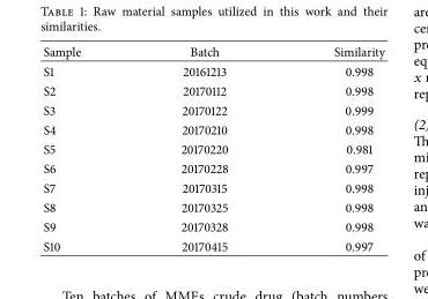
<table><thead><tr><td>Sample</td><td>Batch</td><td>Similarity</td></tr></thead><tbody><tr><td>S1</td><td>20161213</td><td>0.998</td></tr><tr><td>S2</td><td>20170112</td><td>0.998</td></tr><tr><td>S3</td><td>20170122</td><td>0.999</td></tr><tr><td>S4</td><td>20170210</td><td>0.998</td></tr><tr><td>S5</td><td>20170220</td><td>0.981</td></tr><tr><td>S6</td><td>20170228</td><td>0.997</td></tr><tr><td>S7</td><td>20170315</td><td>0.998</td></tr><tr><td>S8</td><td>20170325</td><td>0.998</td></tr><tr><td>S9</td><td>20170328</td><td>0.998</td></tr><tr><td>S10</td><td>20170415</td><td>0.997</td></tr></tbody></table>